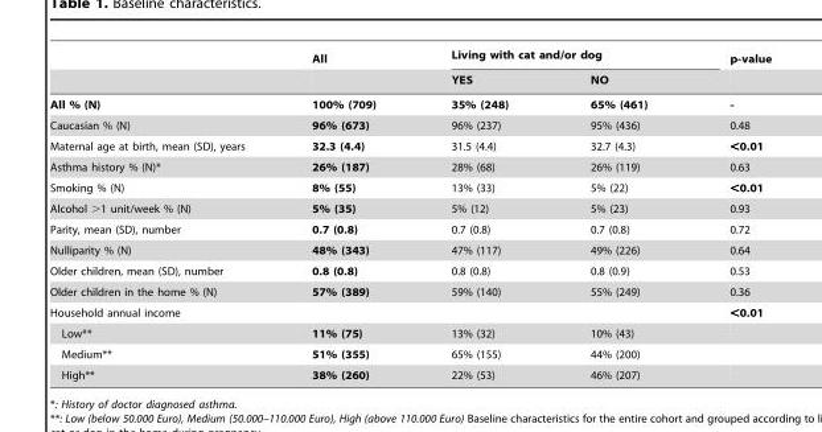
<table><thead><tr><td rowspan="2"></td><td rowspan="2">All</td><td colspan="2">Living with cat and/or dog</td><td rowspan="2">p-value</td></tr><tr><td>YES</td><td>NO</td></tr></thead><tbody><tr><td>All % (N)</td><td>100% (709)</td><td>35% (248)</td><td>65% (461)</td><td>-</td></tr><tr><td>Caucasian % (N)</td><td>96% (673)</td><td>96% (237)</td><td>95% (436)</td><td>0.48</td></tr><tr><td>Maternal age at birth, mean (SD), years</td><td>32.3 (4.4)</td><td>31.5 (4.4)</td><td>32.7 (4.3)</td><td>&lt;0.01</td></tr><tr><td>Asthma history % (N)*</td><td>26% (187)</td><td>28% (68)</td><td>26% (119)</td><td>0.63</td></tr><tr><td>Smoking % (N)</td><td>8% (55)</td><td>13% (33)</td><td>5% (22)</td><td>&lt;0.01</td></tr><tr><td>Alcohol &gt;1 unit/week % (N)</td><td>5% (35)</td><td>5% (12)</td><td>5% (23)</td><td>0.93</td></tr><tr><td>Parity, mean (SD), number</td><td>0.7 (0.8)</td><td>0.7 (0.8)</td><td>0.7 (0.8)</td><td>0.72</td></tr><tr><td>Nulliparity % (N)</td><td>48% (343)</td><td>47% (117)</td><td>49% (226)</td><td>0.64</td></tr><tr><td>Older children, mean (SD), number</td><td>0.8 (0.8)</td><td>0.8 (0.8)</td><td>0.8 (0.9)</td><td>0.53</td></tr><tr><td>Older children in the home % (N)</td><td>57% (389)</td><td>59% (140)</td><td>55% (249)</td><td>0.36</td></tr><tr><td>Household annual income</td><td></td><td></td><td></td><td>&lt;0.01</td></tr><tr><td>Low**</td><td>11% (75)</td><td>13% (32)</td><td>10% (43)</td><td></td></tr><tr><td>Medium**</td><td>51% (355)</td><td>65% (155)</td><td>44% (200)</td><td></td></tr><tr><td>High**</td><td>38% (260)</td><td>22% (53)</td><td>46% (207)</td><td></td></tr></tbody></table>